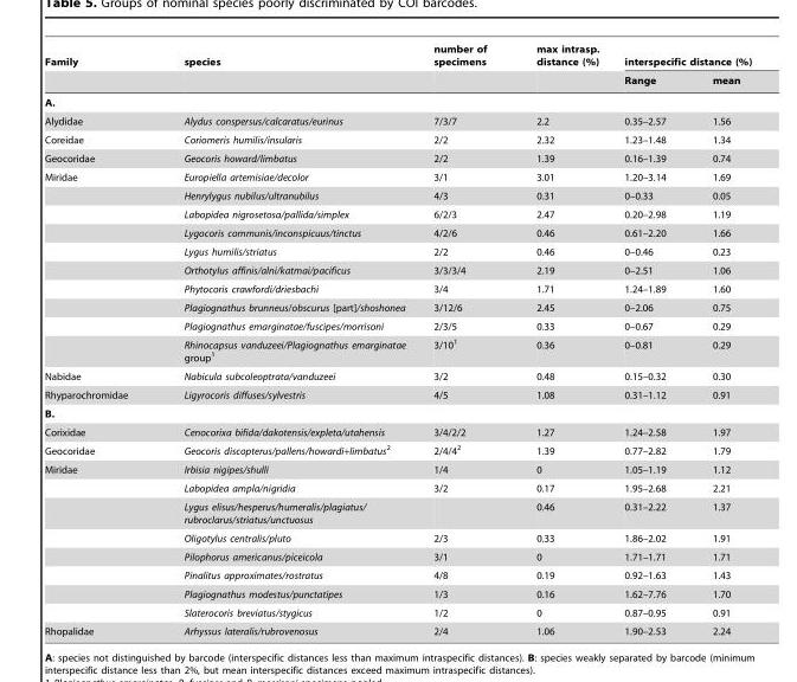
<table><thead><tr><td rowspan="2">Family</td><td rowspan="2">species</td><td rowspan="2">number of specimens</td><td rowspan="2">max intrasp. distance (%)</td><td colspan="2">interspecific distance (%)</td></tr><tr><td>Range</td><td>mean</td></tr></thead><tbody><tr><td colspan="6">A.</td></tr><tr><td>Alydidae</td><td>Alydus conspersus/calcaratus/eurinus</td><td>7/3/7</td><td>2.2</td><td>0.35–2.57</td><td>1.56</td></tr><tr><td>Coreidae</td><td>Coriomeris humilis/insularis</td><td>2/2</td><td>2.32</td><td>1.23–1.48</td><td>1.34</td></tr><tr><td>Geocoridae</td><td>Geocoris howard/limbatus</td><td>2/2</td><td>1.39</td><td>0.16–1.39</td><td>0.74</td></tr><tr><td rowspan="10">Miridae</td><td>Europiella artemisiae/decolor</td><td>3/1</td><td>3.01</td><td>1.20–3.14</td><td>1.69</td></tr><tr><td>Henrylygus nubilus/ultranubilus</td><td>4/3</td><td>0.31</td><td>0–0.33</td><td>0.05</td></tr><tr><td>Labopidea nigrosetosa/pallida/simplex</td><td>6/2/3</td><td>2.47</td><td>0.20–2.98</td><td>1.19</td></tr><tr><td>Lygocoris communis/inconspicuus/tinctus</td><td>4/2/6</td><td>0.46</td><td>0.61–2.20</td><td>1.66</td></tr><tr><td>Lygus humilis/striatus</td><td>2/2</td><td>0.46</td><td>0–0.46</td><td>0.23</td></tr><tr><td>Orthotylus affinis/alni/katmai/pacificus</td><td>3/3/3/4</td><td>2.19</td><td>0–2.51</td><td>1.06</td></tr><tr><td>Phytocoris crawfordi/driesbachi</td><td>3/4</td><td>1.71</td><td>1.24–1.89</td><td>1.60</td></tr><tr><td>Plagiognathus brunneus/obscurus [part]/shoshonea</td><td>3/12/6</td><td>2.45</td><td>0–2.06</td><td>0.75</td></tr><tr><td>Plagiognathus emarginatae/fuscipes/morrisoni</td><td>2/3/5</td><td>0.33</td><td>0–0.67</td><td>0.29</td></tr><tr><td>Rhinocapsus vanduzeei/Plagiognathus emarginatae group<sup>1</sup></td><td>3/10<sup>1</sup></td><td>0.36</td><td>0–0.81</td><td>0.29</td></tr><tr><td>Nabidae</td><td>Nabicula subcoleoptrata/vanduzeei</td><td>3/2</td><td>0.48</td><td>0.15–0.32</td><td>0.30</td></tr><tr><td>Rhyparochromidae</td><td>Ligyrocoris diffuses/sylvestris</td><td>4/5</td><td>1.08</td><td>0.31–1.12</td><td>0.91</td></tr><tr><td colspan="6">B.</td></tr><tr><td>Corixidae</td><td>Cenocorixa bifida/dakotensis/expleta/utahensis</td><td>3/4/2/2</td><td>1.27</td><td>1.24–2.58</td><td>1.97</td></tr><tr><td>Geocoridae</td><td>Geocoris discopterus/pallens/howardi+limbatus<sup>2</sup></td><td>2/4/4<sup>2</sup></td><td>1.39</td><td>0.77–2.82</td><td>1.79</td></tr><tr><td rowspan="8">Miridae</td><td>Irbisia nigipes/shulli</td><td>1/4</td><td>0</td><td>1.05–1.19</td><td>1.12</td></tr><tr><td>Labopidea ampla/nigridia</td><td>3/2</td><td>0.17</td><td>1.95–2.68</td><td>2.21</td></tr><tr><td>Lygus elisus/hesperus/humeralis/plagiatus/ rubroclarus/striatus/unctuosus</td><td></td><td>0.46</td><td>0.31–2.22</td><td>1.37</td></tr><tr><td>Oligotylus centralis/pluto</td><td>2/3</td><td>0.33</td><td>1.86–2.02</td><td>1.91</td></tr><tr><td>Pilophorus americanus/piceicola</td><td>3/1</td><td>0</td><td>1.71–1.71</td><td>1.71</td></tr><tr><td>Pinalitus approximates/rostratus</td><td>4/8</td><td>0.19</td><td>0.92–1.63</td><td>1.43</td></tr><tr><td>Plagiognathus modestus/punctatipes</td><td>1/3</td><td>0.16</td><td>1.62–7.76</td><td>1.70</td></tr><tr><td>Slaterocoris breviatus/stygicus</td><td>1/2</td><td>0</td><td>0.87–0.95</td><td>0.91</td></tr><tr><td>Rhopalidae</td><td>Arhyssus lateralis/rubrovenosus</td><td>2/4</td><td>1.06</td><td>1.90–2.53</td><td>2.24</td></tr></tbody></table>